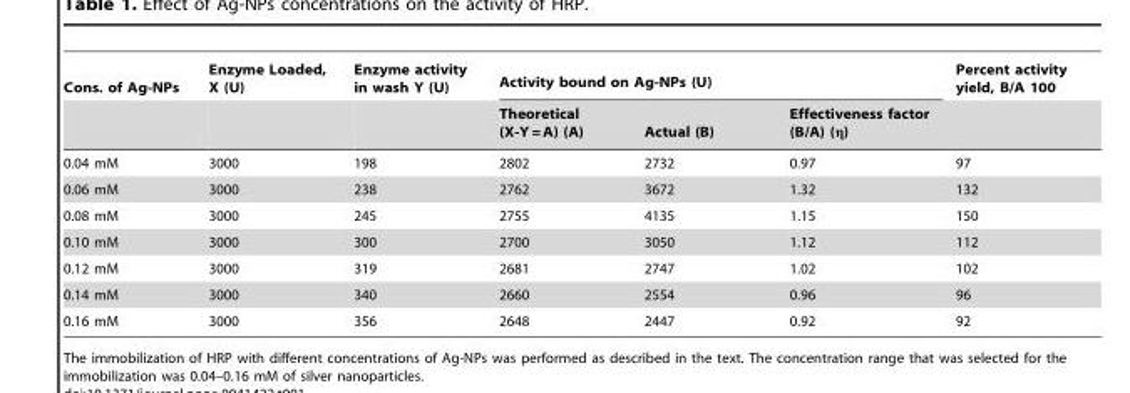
<table><thead><tr><td rowspan="2">Cons. of Ag-NPs</td><td rowspan="2">Enzyme Loaded, X (U)</td><td rowspan="2">Enzyme activity in wash Y (U)</td><td colspan="3">Activity bound on Ag-NPs (U)</td><td rowspan="2">Percent activity yield, B/A 100</td></tr><tr><td>Theoretical (X-Y = A) (A)</td><td>Actual (B)</td><td>Effectiveness factor (B/A) (η)</td></tr></thead><tbody><tr><td>0.04 mM</td><td>3000</td><td>198</td><td>2802</td><td>2732</td><td>0.97</td><td>97</td></tr><tr><td>0.06 mM</td><td>3000</td><td>238</td><td>2762</td><td>3672</td><td>1.32</td><td>132</td></tr><tr><td>0.08 mM</td><td>3000</td><td>245</td><td>2755</td><td>4135</td><td>1.15</td><td>150</td></tr><tr><td>0.10 mM</td><td>3000</td><td>300</td><td>2700</td><td>3050</td><td>1.12</td><td>112</td></tr><tr><td>0.12 mM</td><td>3000</td><td>319</td><td>2681</td><td>2747</td><td>1.02</td><td>102</td></tr><tr><td>0.14 mM</td><td>3000</td><td>340</td><td>2660</td><td>2554</td><td>0.96</td><td>96</td></tr><tr><td>0.16 mM</td><td>3000</td><td>356</td><td>2648</td><td>2447</td><td>0.92</td><td>92</td></tr></tbody></table>